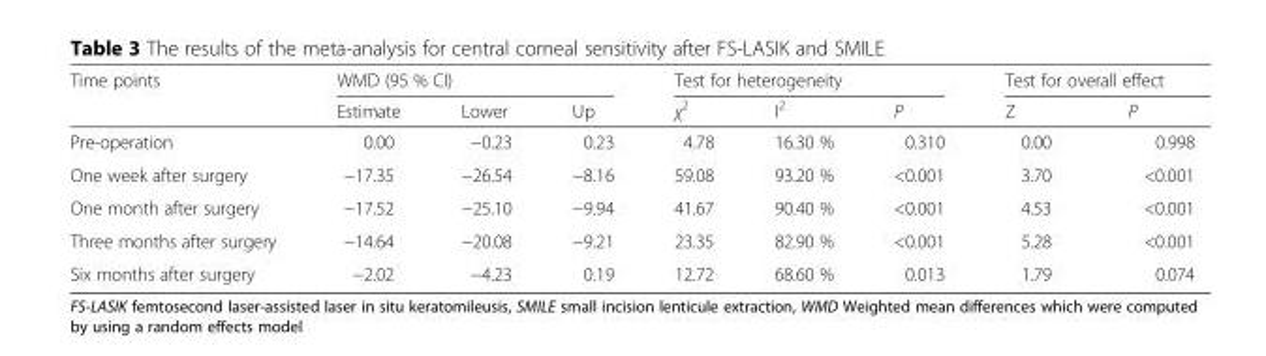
<table><thead><tr><td rowspan="2">Time points</td><td colspan="3">WMD (95 % CI)</td><td colspan="3">Test for heterogeneity</td><td colspan="2">Test for overall effect</td></tr><tr><td>Estimate</td><td>Lower</td><td>Up</td><td>χ<sup>2</sup></td><td>I<sup>2</sup></td><td>P</td><td>Z</td><td>P</td></tr></thead><tbody><tr><td>Pre-operation</td><td>0.00</td><td>−0.23</td><td>0.23</td><td>4.78</td><td>16.30 %</td><td>0.310</td><td>0.00</td><td>0.998</td></tr><tr><td>One week after surgery</td><td>−17.35</td><td>−26.54</td><td>−8.16</td><td>59.08</td><td>93.20 %</td><td>&lt;0.001</td><td>3.70</td><td>&lt;0.001</td></tr><tr><td>One month after surgery</td><td>−17.52</td><td>−25.10</td><td>−9.94</td><td>41.67</td><td>90.40 %</td><td>&lt;0.001</td><td>4.53</td><td>&lt;0.001</td></tr><tr><td>Three months after surgery</td><td>−14.64</td><td>−20.08</td><td>−9.21</td><td>23.35</td><td>82.90 %</td><td>&lt;0.001</td><td>5.28</td><td>&lt;0.001</td></tr><tr><td>Six months after surgery</td><td>−2.02</td><td>−4.23</td><td>0.19</td><td>12.72</td><td>68.60 %</td><td>0.013</td><td>1.79</td><td>0.074</td></tr></tbody></table>